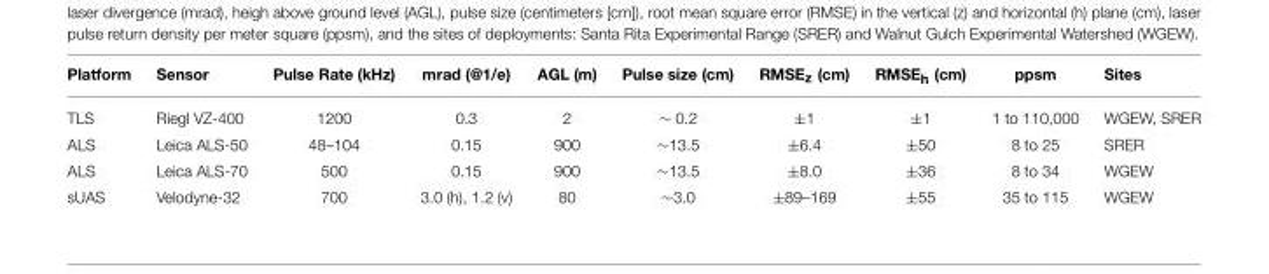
<table><thead><tr><td>Platform</td><td>Sensor</td><td>Pulse Rate (kHz)</td><td>mrad (@1/e)</td><td>AGL (m)</td><td>Pulse size (cm)</td><td>RMSE<sub>z</sub> (cm)</td><td>RMSE<sub>h</sub> (cm)</td><td>ppsm</td><td>Sites</td></tr></thead><tbody><tr><td>TLS</td><td>Riegl VZ-400</td><td>1200</td><td>0.3</td><td>2</td><td>∼ 0.2</td><td>±1</td><td>±1</td><td>1 to 110,000</td><td>WGEW, SRER</td></tr><tr><td>ALS</td><td>Leica ALS-50</td><td>48–104</td><td>0.15</td><td>900</td><td>∼13.5</td><td>±6.4</td><td>±50</td><td>8 to 25</td><td>SRER</td></tr><tr><td>ALS</td><td>Leica ALS-70</td><td>500</td><td>0.15</td><td>900</td><td>∼13.5</td><td>±8.0</td><td>±36</td><td>8 to 34</td><td>WGEW</td></tr><tr><td>sUAS</td><td>Velodyne-32</td><td>700</td><td>3.0 (h), 1.2 (v)</td><td>80</td><td>∼3.0</td><td>±89–169</td><td>±55</td><td>35 to 115</td><td>WGEW</td></tr></tbody></table>